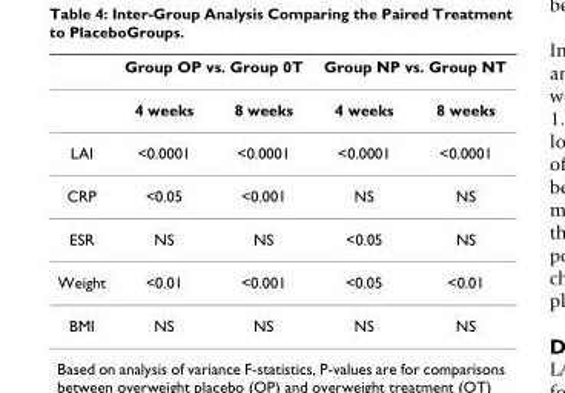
<table><thead><tr><td rowspan="2"></td><td colspan="2">Group OP vs. Group 0T</td><td colspan="2">Group NP vs. Group NT</td></tr><tr><td>4 weeks</td><td>8 weeks</td><td>4 weeks</td><td>8 weeks</td></tr></thead><tbody><tr><td>LAI</td><td>&lt;0.0001</td><td>&lt;0.0001</td><td>&lt;0.0001</td><td>&lt;0.0001</td></tr><tr><td>CRP</td><td>&lt;0.05</td><td>&lt;0.001</td><td>NS</td><td>NS</td></tr><tr><td>ESR</td><td>NS</td><td>NS</td><td>&lt;0.05</td><td>NS</td></tr><tr><td>Weight</td><td>&lt;0.01</td><td>&lt;0.001</td><td>&lt;0.05</td><td>&lt;0.01</td></tr><tr><td>BMI</td><td>NS</td><td>NS</td><td>NS</td><td>NS</td></tr></tbody></table>